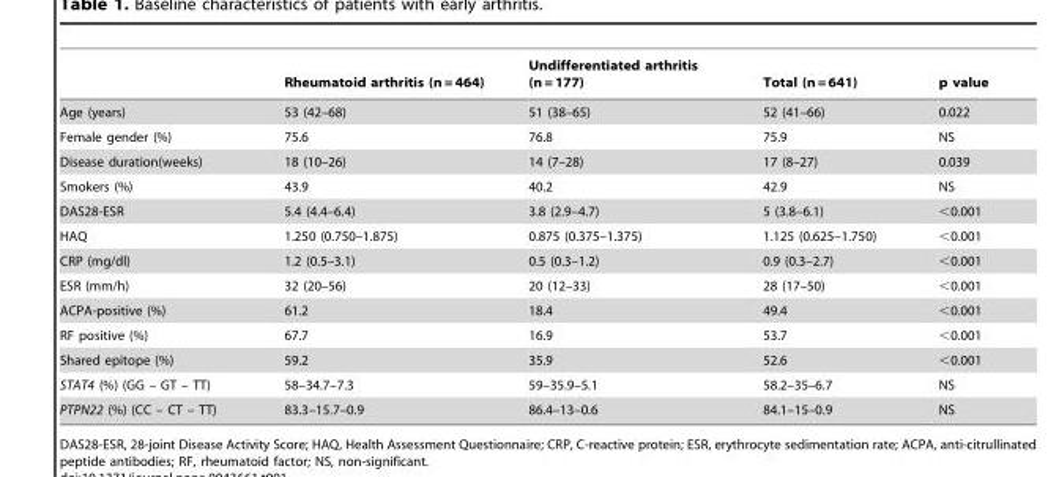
<table><thead><tr><td></td><td>Rheumatoid arthritis (n = 464)</td><td>Undifferentiated arthritis (n = 177)</td><td>Total (n = 641)</td><td>p value</td></tr></thead><tbody><tr><td>Age (years)</td><td>53 (42–68)</td><td>51 (38–65)</td><td>52 (41–66)</td><td>0.022</td></tr><tr><td>Female gender (%)</td><td>75.6</td><td>76.8</td><td>75.9</td><td>NS</td></tr><tr><td>Disease duration(weeks)</td><td>18 (10–26)</td><td>14 (7–28)</td><td>17 (8–27)</td><td>0.039</td></tr><tr><td>Smokers (%)</td><td>43.9</td><td>40.2</td><td>42.9</td><td>NS</td></tr><tr><td>DAS28-ESR</td><td>5.4 (4.4–6.4)</td><td>3.8 (2.9–4.7)</td><td>5 (3.8–6.1)</td><td>&lt;0.001</td></tr><tr><td>HAQ</td><td>1.250 (0.750–1.875)</td><td>0.875 (0.375–1.375)</td><td>1.125 (0.625–1.750)</td><td>&lt;0.001</td></tr><tr><td>CRP (mg/dl)</td><td>1.2 (0.5–3.1)</td><td>0.5 (0.3–1.2)</td><td>0.9 (0.3–2.7)</td><td>&lt;0.001</td></tr><tr><td>ESR (mm/h)</td><td>32 (20–56)</td><td>20 (12–33)</td><td>28 (17–50)</td><td>&lt;0.001</td></tr><tr><td>ACPA-positive (%)</td><td>61.2</td><td>18.4</td><td>49.4</td><td>&lt;0.001</td></tr><tr><td>RF positive (%)</td><td>67.7</td><td>16.9</td><td>53.7</td><td>&lt;0.001</td></tr><tr><td>Shared epitope (%)</td><td>59.2</td><td>35.9</td><td>52.6</td><td>&lt;0.001</td></tr><tr><td>STAT4 (%) (GG – GT – TT)</td><td>58–34.7–7.3</td><td>59–35.9–5.1</td><td>58.2–35–6.7</td><td>NS</td></tr><tr><td>PTPN22 (%) (CC – CT – TT)</td><td>83.3–15.7–0.9</td><td>86.4–13–0.6</td><td>84.1–15–0.9</td><td>NS</td></tr></tbody></table>